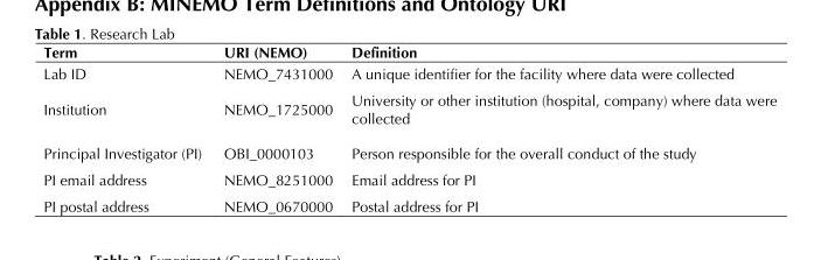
<table><thead><tr><td>Term</td><td>URI (NEMO)</td><td>Definition</td></tr></thead><tbody><tr><td>Lab ID</td><td>NEMO_7431000</td><td>A unique identifier for the facility where data were collected</td></tr><tr><td>Institution</td><td>NEMO_1725000</td><td>University or other institution (hospital, company) where data were collected</td></tr><tr><td>Principal Investigator (PI)</td><td>OBI_0000103</td><td>Person responsible for the overall conduct of the study</td></tr><tr><td>PI email address</td><td>NEMO_8251000</td><td>Email address for PI</td></tr><tr><td>PI postal address</td><td>NEMO_0670000</td><td>Postal address for PI</td></tr></tbody></table>